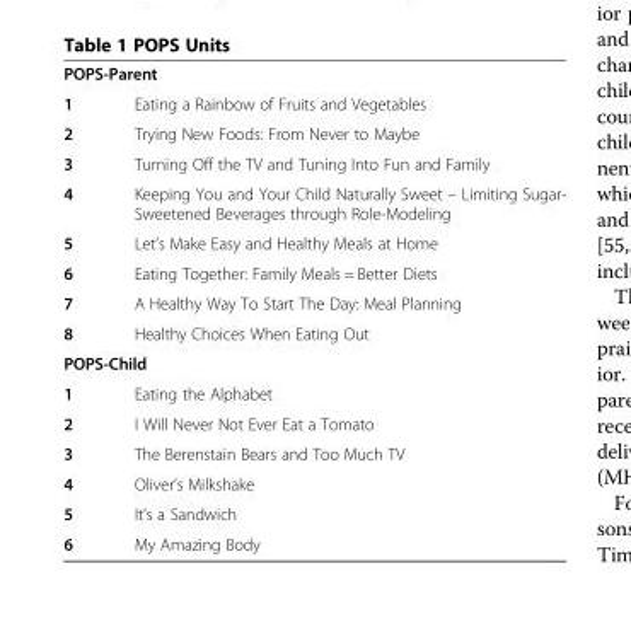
<table><tbody><tr><td colspan="2">POPS-Parent</td></tr><tr><td>1</td><td>Eating a Rainbow of Fruits and Vegetables</td></tr><tr><td>2</td><td>Trying New Foods: From Never to Maybe</td></tr><tr><td>3</td><td>Turning Off the TV and Tuning Into Fun and Family</td></tr><tr><td>4</td><td>Keeping You and Your Child Naturally Sweet – Limiting Sugar- Sweetened Beverages through Role-Modeling</td></tr><tr><td>5</td><td>Let’s Make Easy and Healthy Meals at Home</td></tr><tr><td>6</td><td>Eating Together: Family Meals = Better Diets</td></tr><tr><td>7</td><td>A Healthy Way To Start The Day: Meal Planning</td></tr><tr><td>8</td><td>Healthy Choices When Eating Out</td></tr><tr><td colspan="2">POPS-Child</td></tr><tr><td>1</td><td>Eating the Alphabet</td></tr><tr><td>2</td><td>I Will Never Not Ever Eat a Tomato</td></tr><tr><td>3</td><td>The Berenstain Bears and Too Much TV</td></tr><tr><td>4</td><td>Oliver’s Milkshake</td></tr><tr><td>5</td><td>It’s a Sandwich</td></tr><tr><td>6</td><td>My Amazing Body</td></tr></tbody></table>